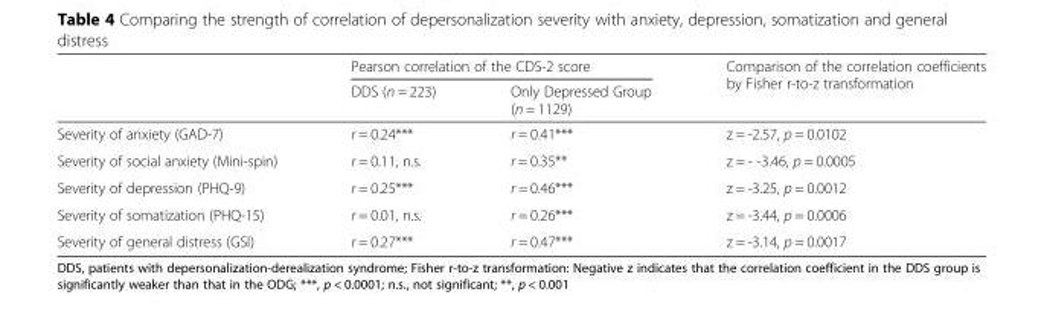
<table><thead><tr><td rowspan="2"></td><td colspan="2">Pearson correlation of the CDS-2 score</td><td rowspan="2">Comparison of the correlation coefficients by Fisher r-to-z transformation</td></tr><tr><td>DDS (n = 223)</td><td>Only Depressed Group (n = 1129)</td></tr></thead><tbody><tr><td>Severity of anxiety (GAD-7)</td><td>r = 0.24***</td><td>r = 0.41***</td><td>z = -2.57, p = 0.0102</td></tr><tr><td>Severity of social anxiety (Mini-spin)</td><td>r = 0.11, n.s.</td><td>r = 0.35**</td><td>z = - -3.46, p = 0.0005</td></tr><tr><td>Severity of depression (PHQ-9)</td><td>r = 0.25***</td><td>r = 0.46***</td><td>z = -3.25, p = 0.0012</td></tr><tr><td>Severity of somatization (PHQ-15)</td><td>r = 0.01, n.s.</td><td>r = 0.26***</td><td>z = -3.44, p = 0.0006</td></tr><tr><td>Severity of general distress (GSI)</td><td>r = 0.27***</td><td>r = 0.47***</td><td>z = -3.14, p = 0.0017</td></tr></tbody></table>